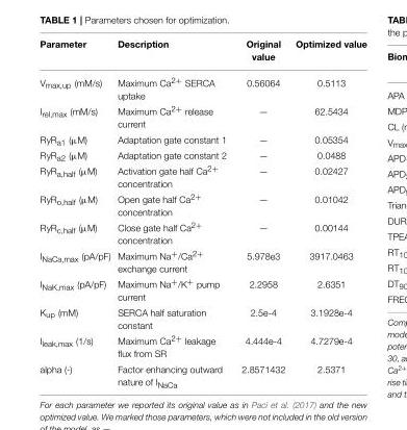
<table><thead><tr><td>Parameter</td><td>Description</td><td>Original value</td><td>Optimized value</td></tr></thead><tbody><tr><td>V<sub>max,up</sub> (mM/s)</td><td>Maximum Ca<sup>2+</sup> SERCA uptake</td><td>0.56064</td><td>0.5113</td></tr><tr><td>I<sub>rel,max</sub> (mM/s)</td><td>Maximum Ca<sup>2+</sup> release current</td><td>—</td><td>62.5434</td></tr><tr><td>RyR<sub>a1</sub> (µM)</td><td>Adaptation gate constant 1</td><td>—</td><td>0.05354</td></tr><tr><td>RyR<sub>a2</sub> (µM)</td><td>Adaptation gate constant 2</td><td>—</td><td>0.0488</td></tr><tr><td>RyR<sub>a,half</sub> (µM)</td><td>Activation gate half Ca<sup>2+</sup> concentration</td><td>—</td><td>0.02427</td></tr><tr><td>RyR<sub>o,half</sub> (µM)</td><td>Open gate half Ca<sup>2+</sup> concentration</td><td>—</td><td>0.01042</td></tr><tr><td>RyR<sub>c,half</sub> (µM)</td><td>Close gate half Ca<sup>2+</sup> concentration</td><td>—</td><td>0.00144</td></tr><tr><td>I<sub>NaCa,max</sub> (pA/pF)</td><td>Maximum Na<sup>+</sup>/Ca<sup>2+</sup> exchange current</td><td>5.978e3</td><td>3917.0463</td></tr><tr><td>I<sub>NaK,max</sub> (pA/pF)</td><td>Maximum Na<sup>+</sup>/K<sup>+</sup> pump current</td><td>2.2958</td><td>2.6351</td></tr><tr><td>K<sub>up</sub> (mM)</td><td>SERCA half saturation constant</td><td>2.5e-4</td><td>3.1928e-4</td></tr><tr><td>I<sub>leak,max</sub> (1/s)</td><td>Maximum Ca<sup>2+</sup> leakage flux from SR</td><td>4.444e-4</td><td>4.7279e-4</td></tr><tr><td>alpha (-)</td><td>Factor enhancing outward nature of I<sub>NaCa</sub></td><td>2.8571432</td><td>2.5371</td></tr></tbody></table>